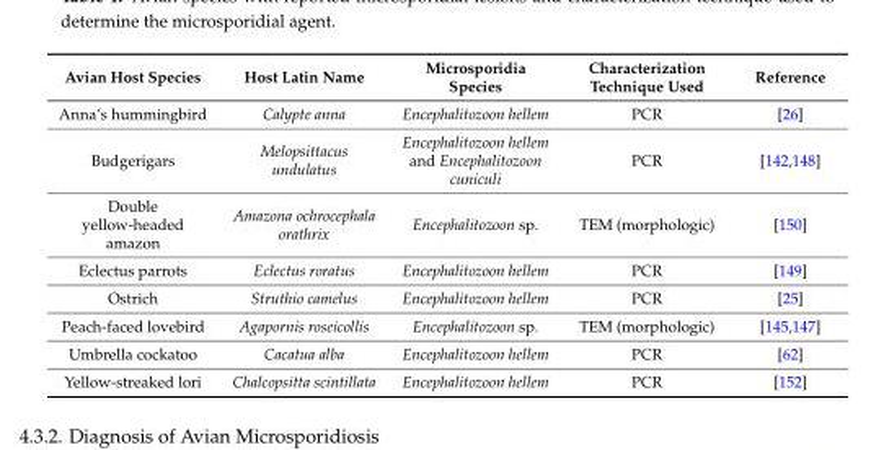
<table><thead><tr><td>Avian Host Species</td><td>Host Latin Name</td><td>Microsporidia Species</td><td>Characterization Technique Used</td><td>Reference</td></tr></thead><tbody><tr><td>Anna’s hummingbird</td><td>Calypte anna</td><td>Encephalitozoon hellem</td><td>PCR</td><td>[26]</td></tr><tr><td>Budgerigars</td><td>Melopsittacus undulatus</td><td>Encephalitozoon hellem and Encephalitozoon cuniculi</td><td>PCR</td><td>[142,148]</td></tr><tr><td>Double yellow-headed amazon</td><td>Amazona ochrocephala orathrix</td><td>Encephalitozoon sp.</td><td>TEM (morphologic)</td><td>[150]</td></tr><tr><td>Eclectus parrots</td><td>Eclectus roratus</td><td>Encephalitozoon hellem</td><td>PCR</td><td>[149]</td></tr><tr><td>Ostrich</td><td>Struthio camelus</td><td>Encephalitozoon hellem</td><td>PCR</td><td>[25]</td></tr><tr><td>Peach-faced lovebird</td><td>Agapornis roseicollis</td><td>Encephalitozoon sp.</td><td>TEM (morphologic)</td><td>[145,147]</td></tr><tr><td>Umbrella cockatoo</td><td>Cacatua alba</td><td>Encephalitozoon hellem</td><td>PCR</td><td>[62]</td></tr><tr><td>Yellow-streaked lori</td><td>Chalcopsitta scintillata</td><td>Encephalitozoon hellem</td><td>PCR</td><td>[152]</td></tr></tbody></table>